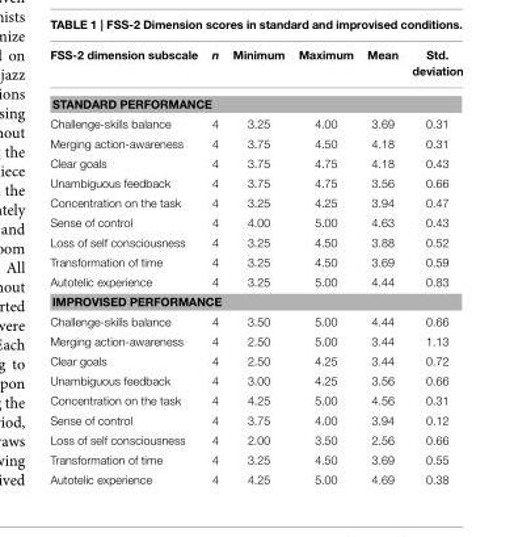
<table><thead><tr><td>FSS-2 dimension subscale</td><td>n</td><td>Minimum</td><td>Maximum</td><td>Mean</td><td>Std. deviation</td></tr></thead><tbody><tr><td colspan="6">STANDARD PERFORMANCE</td></tr><tr><td>Challenge-skills balance</td><td>4</td><td>3.25</td><td>4.00</td><td>3.69</td><td>0.31</td></tr><tr><td>Merging action-awareness</td><td>4</td><td>3.75</td><td>4.50</td><td>4.18</td><td>0.31</td></tr><tr><td>Clear goals</td><td>4</td><td>3.75</td><td>4.75</td><td>4.18</td><td>0.43</td></tr><tr><td>Unambiguous feedback</td><td>4</td><td>3.75</td><td>4.75</td><td>3.56</td><td>0.66</td></tr><tr><td>Concentration on the task</td><td>4</td><td>3.25</td><td>4.25</td><td>3.94</td><td>0.47</td></tr><tr><td>Sense of control</td><td>4</td><td>4.00</td><td>5.00</td><td>4.63</td><td>0.43</td></tr><tr><td>Loss of self consciousness</td><td>4</td><td>3.25</td><td>4.50</td><td>3.88</td><td>0.52</td></tr><tr><td>Transformation of time</td><td>4</td><td>3.25</td><td>4.50</td><td>3.69</td><td>0.59</td></tr><tr><td>Autotelic experience</td><td>4</td><td>3.25</td><td>5.00</td><td>4.44</td><td>0.83</td></tr><tr><td colspan="6">IMPROVISED PERFORMANCE</td></tr><tr><td>Challenge-skills balance</td><td>4</td><td>3.50</td><td>5.00</td><td>4.44</td><td>0.66</td></tr><tr><td>Merging action-awareness</td><td>4</td><td>2.50</td><td>5.00</td><td>3.44</td><td>1.13</td></tr><tr><td>Clear goals</td><td>4</td><td>2.50</td><td>4.25</td><td>3.44</td><td>0.72</td></tr><tr><td>Unambiguous feedback</td><td>4</td><td>3.00</td><td>4.25</td><td>3.56</td><td>0.66</td></tr><tr><td>Concentration on the task</td><td>4</td><td>4.25</td><td>5.00</td><td>4.56</td><td>0.31</td></tr><tr><td>Sense of control</td><td>4</td><td>3.75</td><td>4.00</td><td>3.94</td><td>0.12</td></tr><tr><td>Loss of self consciousness</td><td>4</td><td>2.00</td><td>3.50</td><td>2.56</td><td>0.66</td></tr><tr><td>Transformation of time</td><td>4</td><td>3.25</td><td>4.50</td><td>3.69</td><td>0.55</td></tr><tr><td>Autotelic experience</td><td>4</td><td>4.25</td><td>5.00</td><td>4.69</td><td>0.38</td></tr></tbody></table>